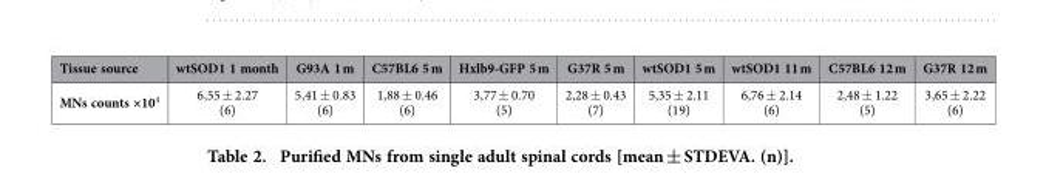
<table><thead><tr><td>Tissue source</td><td>wtSOD1 1 month</td><td>G93A 1 m</td><td>C57BL6 5 m</td><td>Hxlb9-GFP 5 m</td><td>G37R 5 m</td><td>wtSOD1 5 m</td><td>wtSOD1 11 m</td><td>C57BL6 12 m</td><td>G37R 12 m</td></tr></thead><tbody><tr><td>MNs counts ×10<sup>4</sup></td><td>6,55 ± 2.27 (6)</td><td>5,41 ± 0.83 (6)</td><td>1,88 ± 0.46 (6)</td><td>3,77 ± 0.70 (5)</td><td>2,28 ± 0.43 (7)</td><td>5,35 ± 2.11 (19)</td><td>6,76 ± 2.14 (6)</td><td>2,48 ± 1.22 (5)</td><td>3,65 ± 2.22 (6)</td></tr></tbody></table>